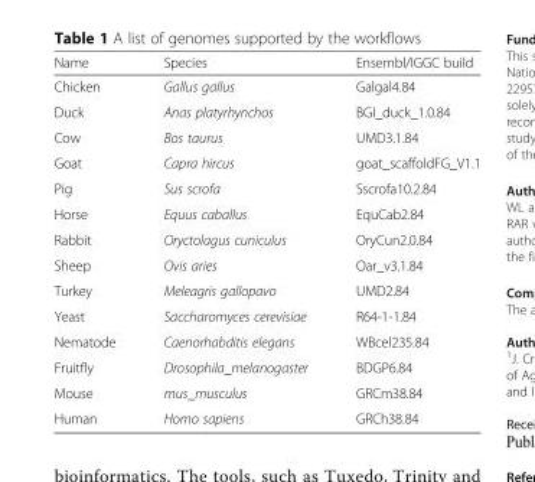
<table><thead><tr><td>Name</td><td>Species</td><td>Ensembl/IGGC build</td></tr></thead><tbody><tr><td>Chicken</td><td>Gallus gallus</td><td>Galgal4.84</td></tr><tr><td>Duck</td><td>Anas platyrhynchos</td><td>BGI_duck_1.0.84</td></tr><tr><td>Cow</td><td>Bos taurus</td><td>UMD3.1.84</td></tr><tr><td>Goat</td><td>Capra hircus</td><td>goat_scaffoldFG_V1.1</td></tr><tr><td>Pig</td><td>Sus scrofa</td><td>Sscrofa10.2.84</td></tr><tr><td>Horse</td><td>Equus caballus</td><td>EquCab2.84</td></tr><tr><td>Rabbit</td><td>Oryctolagus cuniculus</td><td>OryCun2.0.84</td></tr><tr><td>Sheep</td><td>Ovis aries</td><td>Oar_v3.1.84</td></tr><tr><td>Turkey</td><td>Meleagris gallopavo</td><td>UMD2.84</td></tr><tr><td>Yeast</td><td>Saccharomyces cerevisiae</td><td>R64-1-1.84</td></tr><tr><td>Nematode</td><td>Caenorhabditis elegans</td><td>WBcel235.84</td></tr><tr><td>Fruitfly</td><td>Drosophila_melanogaster</td><td>BDGP6.84</td></tr><tr><td>Mouse</td><td>mus_musculus</td><td>GRCm38.84</td></tr><tr><td>Human</td><td>Homo sapiens</td><td>GRCh38.84</td></tr></tbody></table>